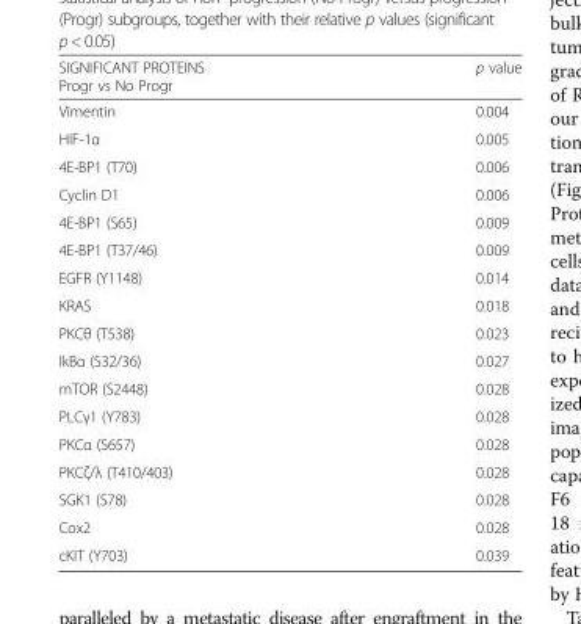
<table><thead><tr><td>SIGNIFICANT PROTEINS Progr vs No Progr</td><td>p value</td></tr></thead><tbody><tr><td>Vimentin</td><td>0.004</td></tr><tr><td>HIF-1α</td><td>0.005</td></tr><tr><td>4E-BP1 (T70)</td><td>0.006</td></tr><tr><td>Cyclin D1</td><td>0.006</td></tr><tr><td>4E-BP1 (S65)</td><td>0.009</td></tr><tr><td>4E-BP1 (T37/46)</td><td>0.009</td></tr><tr><td>EGFR (Y1148)</td><td>0.014</td></tr><tr><td>KRAS</td><td>0.018</td></tr><tr><td>PKCθ (T538)</td><td>0.023</td></tr><tr><td>IkBα (S32/36)</td><td>0.027</td></tr><tr><td>mTOR (S2448)</td><td>0.028</td></tr><tr><td>PLCγ1 (Y783)</td><td>0.028</td></tr><tr><td>PKCα (S657)</td><td>0.028</td></tr><tr><td>PKCζ/λ (T410/403)</td><td>0.028</td></tr><tr><td>SGK1 (S78)</td><td>0.028</td></tr><tr><td>Cox2</td><td>0.028</td></tr><tr><td>cKIT (Y703)</td><td>0.039</td></tr></tbody></table>